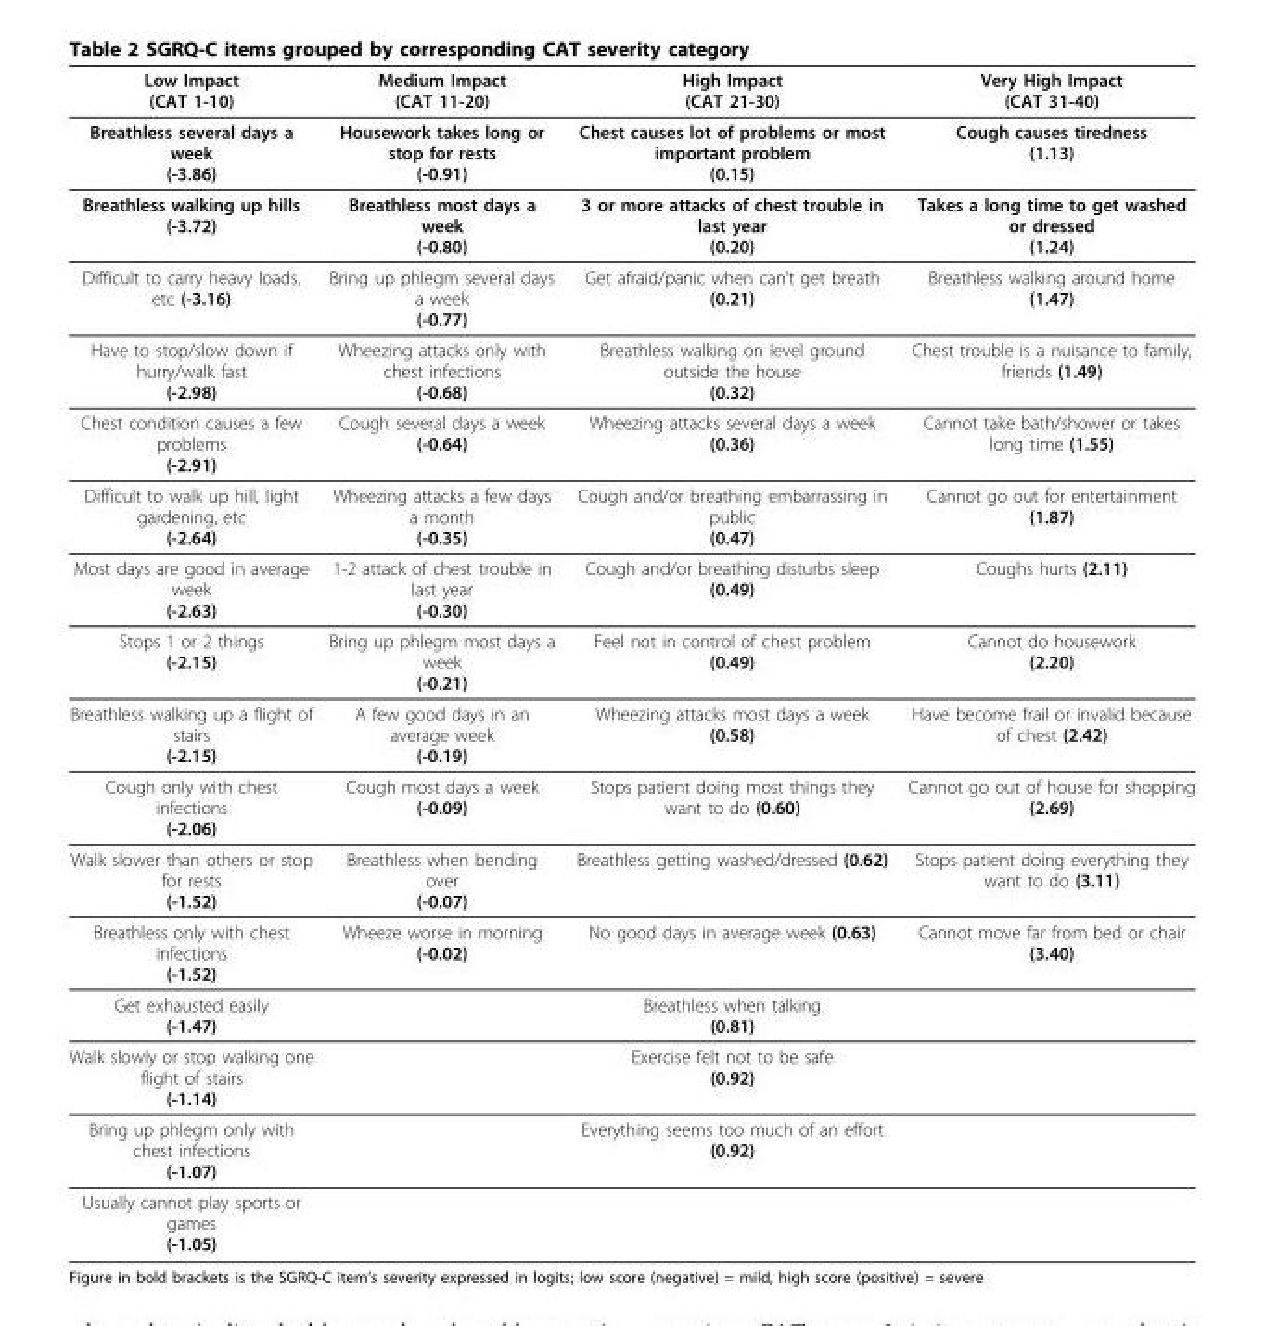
<table><thead><tr><td>Low Impact (CAT 1-10)</td><td>Medium Impact (CAT 11-20)</td><td>High Impact (CAT 21-30)</td><td>Very High Impact (CAT 31-40)</td></tr></thead><tbody><tr><td>Breathless several days a week (-3.86)</td><td>Housework takes long or stop for rests (-0.91)</td><td>Chest causes lot of problems or most important problem (0.15)</td><td>Cough causes tiredness (1.13)</td></tr><tr><td>Breathless walking up hills (-3.72)</td><td>Breathless most days a week (-0.80)</td><td>3 or more attacks of chest trouble in last year (0.20)</td><td>Takes a long time to get washed or dressed (1.24)</td></tr><tr><td>Difficult to carry heavy loads, etc (-3.16)</td><td>Bring up phlegm several days a week (-0.77)</td><td>Get afraid/panic when can’t get breath (0.21)</td><td>Breathless walking around home (1.47)</td></tr><tr><td>Have to stop/slow down if hurry/walk fast (-2.98)</td><td>Wheezing attacks only with chest infections (-0.68)</td><td>Breathless walking on level ground outside the house (0.32)</td><td>Chest trouble is a nuisance to family, friends (1.49)</td></tr><tr><td>Chest condition causes a few problems (-2.91)</td><td>Cough several days a week (-0.64)</td><td>Wheezing attacks several days a week (0.36)</td><td>Cannot take bath/shower or takes long time (1.55)</td></tr><tr><td>Difficult to walk up hill, light gardening, etc (-2.64)</td><td>Wheezing attacks a few days a month (-0.35)</td><td>Cough and/or breathing embarrassing in public (0.47)</td><td>Cannot go out for entertainment (1.87)</td></tr><tr><td>Most days are good in average week (-2.63)</td><td>1-2 attack of chest trouble in last year (-0.30)</td><td>Cough and/or breathing disturbs sleep (0.49)</td><td>Coughs hurts (2.11)</td></tr><tr><td>Stops 1 or 2 things (-2.15)</td><td>Bring up phlegm most days a week (-0.21)</td><td>Feel not in control of chest problem (0.49)</td><td>Cannot do housework (2.20)</td></tr><tr><td>Breathless walking up a flight of stairs (-2.15)</td><td>A few good days in an average week (-0.19)</td><td>Wheezing attacks most days a week (0.58)</td><td>Have become frail or invalid because of chest (2.42)</td></tr><tr><td>Cough only with chest infections (-2.06)</td><td>Cough most days a week (-0.09)</td><td>Stops patient doing most things they want to do (0.60)</td><td>Cannot go out of house for shopping (2.69)</td></tr><tr><td>Walk slower than others or stop for rests (-1.52)</td><td>Breathless when bending over (-0.07)</td><td>Breathless getting washed/dressed (0.62)</td><td>Stops patient doing everything they want to do (3.11)</td></tr><tr><td>Breathless only with chest infections (-1.52)</td><td>Wheeze worse in morning (-0.02)</td><td>No good days in average week (0.63)</td><td>Cannot move far from bed or chair (3.40)</td></tr><tr><td>Get exhausted easily (-1.47)</td><td></td><td>Breathless when talking (0.81)</td><td></td></tr><tr><td>Walk slowly or stop walking one flight of stairs (-1.14)</td><td></td><td>Exercise felt not to be safe (0.92)</td><td></td></tr><tr><td>Bring up phlegm only with chest infections (-1.07)</td><td></td><td>Everything seems too much of an effort (0.92)</td><td></td></tr><tr><td>Usually cannot play sports or games (-1.05)</td><td></td><td></td><td></td></tr></tbody></table>